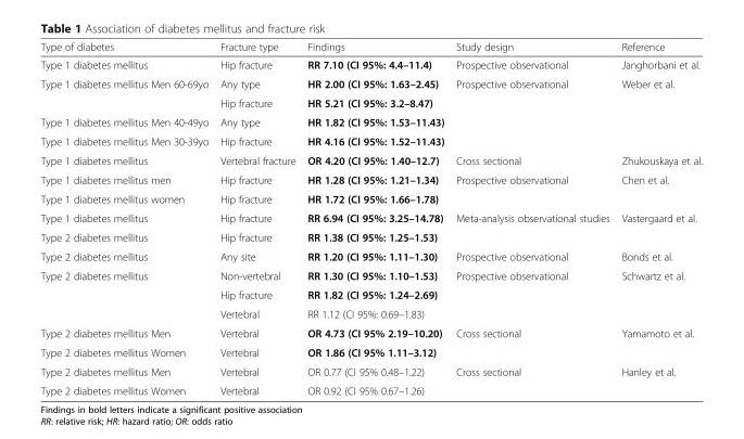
<table><thead><tr><td>Type of diabetes</td><td>Fracture type</td><td>Findings</td><td>Study design</td><td>Reference</td></tr></thead><tbody><tr><td>Type 1 diabetes mellitus</td><td>Hip fracture</td><td>RR 7.10 (CI 95%: 4.4–11.4)</td><td>Prospective observational</td><td>Janghorbani et al.</td></tr><tr><td rowspan="2">Type 1 diabetes mellitus Men 60-69yo</td><td>Any type</td><td>HR 2.00 (CI 95%: 1.63–2.45)</td><td rowspan="4">Prospective observational</td><td rowspan="4">Weber et al.</td></tr><tr><td>Hip fracture</td><td>HR 5.21 (CI 95%: 3.2–8.47)</td></tr><tr><td>Type 1 diabetes mellitus Men 40-49yo</td><td>Any type</td><td>HR 1.82 (CI 95%: 1.53–11.43)</td></tr><tr><td>Type 1 diabetes mellitus Men 30-39yo</td><td>Hip fracture</td><td>HR 4.16 (CI 95%: 1.52–11.43)</td></tr><tr><td>Type 1 diabetes mellitus</td><td>Vertebral fracture</td><td>OR 4.20 (CI 95%: 1.40–12.7)</td><td>Cross sectional</td><td>Zhukouskaya et al.</td></tr><tr><td>Type 1 diabetes mellitus men</td><td>Hip fracture</td><td>HR 1.28 (CI 95%: 1.21–1.34)</td><td rowspan="2">Prospective observational</td><td rowspan="2">Chen et al.</td></tr><tr><td>Type 1 diabetes mellitus women</td><td>Hip fracture</td><td>HR 1.72 (CI 95%: 1.66–1.78)</td></tr><tr><td>Type 1 diabetes mellitus</td><td>Hip fracture</td><td>RR 6.94 (CI 95%: 3.25–14.78)</td><td rowspan="2">Meta-analysis observational studies</td><td rowspan="2">Vastergaard et al.</td></tr><tr><td>Type 2 diabetes mellitus</td><td>Hip fracture</td><td>RR 1.38 (CI 95%: 1.25–1.53)</td></tr><tr><td>Type 2 diabetes mellitus</td><td>Any site</td><td>RR 1.20 (CI 95%: 1.11–1.30)</td><td>Prospective observational</td><td>Bonds et al.</td></tr><tr><td rowspan="3">Type 2 diabetes mellitus</td><td>Non-vertebral</td><td>RR 1.30 (CI 95%: 1.10–1.53)</td><td rowspan="3">Prospective observational</td><td rowspan="3">Schwartz et al.</td></tr><tr><td>Hip fracture</td><td>RR 1.82 (CI 95%: 1.24–2.69)</td></tr><tr><td>Vertebral</td><td>RR 1.12 (CI 95%: 0.69–1.83)</td></tr><tr><td>Type 2 diabetes mellitus Men</td><td>Vertebral</td><td>OR 4.73 (CI 95% 2.19–10.20)</td><td rowspan="2">Cross sectional</td><td rowspan="2">Yamamoto et al.</td></tr><tr><td>Type 2 diabetes mellitus Women</td><td>Vertebral</td><td>OR 1.86 (CI 95% 1.11–3.12)</td></tr><tr><td>Type 2 diabetes mellitus Men</td><td>Vertebral</td><td>OR 0.77 (CI 95% 0.48–1.22)</td><td rowspan="2">Cross sectional</td><td rowspan="2">Hanley et al.</td></tr><tr><td>Type 2 diabetes mellitus Women</td><td>Vertebral</td><td>OR 0.92 (CI 95% 0.67–1.26)</td></tr></tbody></table>